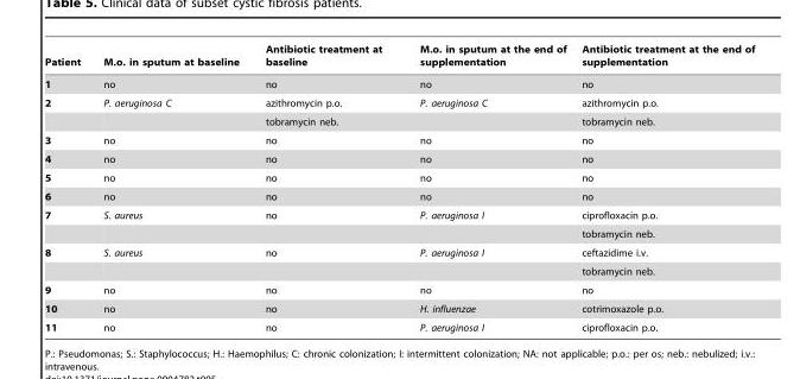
<table><thead><tr><td>Patient</td><td>M.o. in sputum at baseline</td><td>Antibiotic treatment at baseline</td><td>M.o. in sputum at the end of supplementation</td><td>Antibiotic treatment at the end of supplementation</td></tr></thead><tbody><tr><td>1</td><td>no</td><td>no</td><td>no</td><td>no</td></tr><tr><td rowspan="2">2</td><td>P. aeruginosa C</td><td>azithromycin p.o.</td><td>P. aeruginosa C</td><td>azithromycin p.o.</td></tr><tr><td></td><td>tobramycin neb.</td><td></td><td>tobramycin neb.</td></tr><tr><td>3</td><td>no</td><td>no</td><td>no</td><td>no</td></tr><tr><td>4</td><td>no</td><td>no</td><td>no</td><td>no</td></tr><tr><td>5</td><td>no</td><td>no</td><td>no</td><td>no</td></tr><tr><td>6</td><td>no</td><td>no</td><td>no</td><td>no</td></tr><tr><td rowspan="2">7</td><td>S. aureus</td><td>no</td><td>P. aeruginosa I</td><td>ciprofloxacin p.o.</td></tr><tr><td></td><td></td><td></td><td>tobramycin neb.</td></tr><tr><td rowspan="2">8</td><td>S. aureus</td><td>no</td><td>P. aeruginosa I</td><td>ceftazidime i.v.</td></tr><tr><td></td><td></td><td></td><td>tobramycin neb.</td></tr><tr><td>9</td><td>no</td><td>no</td><td>no</td><td>no</td></tr><tr><td>10</td><td>no</td><td>no</td><td>H. influenzae</td><td>cotrimoxazole p.o.</td></tr><tr><td>11</td><td>no</td><td>no</td><td>P. aeruginosa I</td><td>ciprofloxacin p.o.</td></tr></tbody></table>